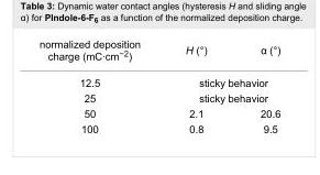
<table><tbody><tr><td>normalized deposition charge (mC·cm<sup>−2</sup>)</td><td>H (°)</td><td>α (°)</td></tr><tr><td>12.5</td><td colspan="2">sticky behavior</td></tr><tr><td>25</td><td colspan="2">sticky behavior</td></tr><tr><td>50</td><td>2.1</td><td>20.6</td></tr><tr><td>100</td><td>0.8</td><td>9.5</td></tr></tbody></table>